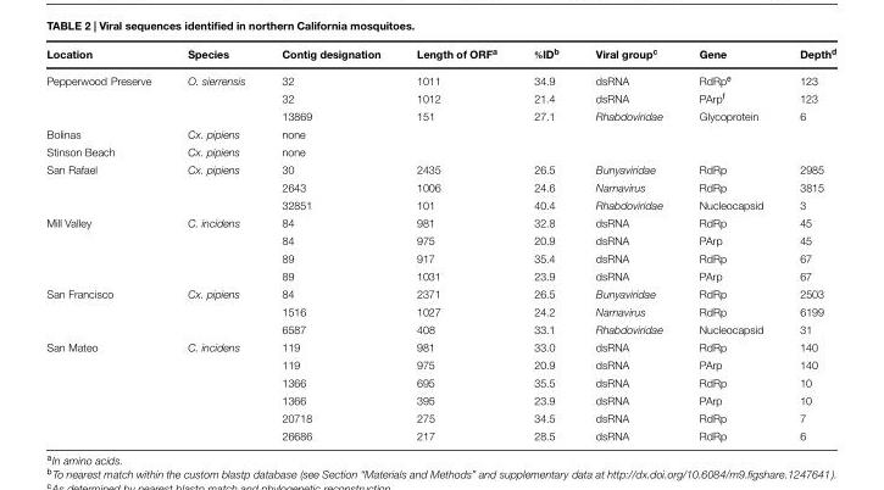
<table><thead><tr><td>Location</td><td>Species</td><td>Contig designation</td><td>Length of ORF<sup>a</sup></td><td>%ID<sup>b</sup></td><td>Viral group<sup>c</sup></td><td>Gene</td><td>Depth<sup>d</sup></td></tr></thead><tbody><tr><td rowspan="3">Pepperwood Preserve</td><td>O. sierrensis</td><td>32</td><td>1011</td><td>34.9</td><td>dsRNA</td><td>RdRp<sup>e</sup></td><td>123</td></tr><tr><td></td><td>32</td><td>1012</td><td>21.4</td><td>dsRNA</td><td>PArp<sup>f</sup></td><td>123</td></tr><tr><td></td><td>13869</td><td>151</td><td>27.1</td><td>Rhabdoviridae</td><td>Glycoprotein</td><td>6</td></tr><tr><td>Bolinas</td><td>Cx. pipiens</td><td>none</td><td></td><td></td><td></td><td></td><td></td></tr><tr><td>Stinson Beach</td><td>Cx. pipiens</td><td>none</td><td></td><td></td><td></td><td></td><td></td></tr><tr><td rowspan="3">San Rafael</td><td>Cx. pipiens</td><td>30</td><td>2435</td><td>26.5</td><td>Bunyaviridae</td><td>RdRp</td><td>2985</td></tr><tr><td></td><td>2643</td><td>1006</td><td>24.6</td><td>Narnavirus</td><td>RdRp</td><td>3815</td></tr><tr><td></td><td>32851</td><td>101</td><td>40.4</td><td>Rhabdoviridae</td><td>Nucleocapsid</td><td>3</td></tr><tr><td rowspan="4">Mill Valley</td><td>C. incidens</td><td>84</td><td>981</td><td>32.8</td><td>dsRNA</td><td>RdRp</td><td>45</td></tr><tr><td></td><td>84</td><td>975</td><td>20.9</td><td>dsRNA</td><td>PArp</td><td>45</td></tr><tr><td></td><td>89</td><td>917</td><td>35.4</td><td>dsRNA</td><td>RdRp</td><td>67</td></tr><tr><td></td><td>89</td><td>1031</td><td>23.9</td><td>dsRNA</td><td>PArp</td><td>67</td></tr><tr><td rowspan="3">San Francisco</td><td>Cx. pipiens</td><td>84</td><td>2371</td><td>26.5</td><td>Bunyaviridae</td><td>RdRp</td><td>2503</td></tr><tr><td></td><td>1516</td><td>1027</td><td>24.2</td><td>Narnavirus</td><td>RdRp</td><td>6199</td></tr><tr><td></td><td>6587</td><td>408</td><td>33.1</td><td>Rhabdoviridae</td><td>Nucleocapsid</td><td>31</td></tr><tr><td rowspan="6">San Mateo</td><td>C. incidens</td><td>119</td><td>981</td><td>33.0</td><td>dsRNA</td><td>RdRp</td><td>140</td></tr><tr><td></td><td>119</td><td>975</td><td>20.9</td><td>dsRNA</td><td>PArp</td><td>140</td></tr><tr><td></td><td>1366</td><td>695</td><td>35.5</td><td>dsRNA</td><td>RdRp</td><td>10</td></tr><tr><td></td><td>1366</td><td>395</td><td>23.9</td><td>dsRNA</td><td>PArp</td><td>10</td></tr><tr><td></td><td>20718</td><td>275</td><td>34.5</td><td>dsRNA</td><td>RdRp</td><td>7</td></tr><tr><td></td><td>26686</td><td>217</td><td>28.5</td><td>dsRNA</td><td>RdRp</td><td>6</td></tr></tbody></table>